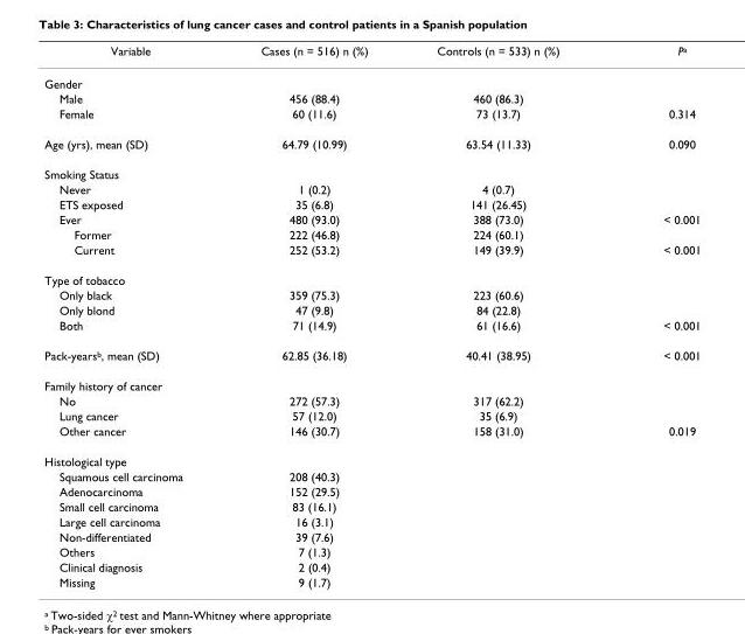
<table><thead><tr><td>Variable</td><td>Cases (n = 516) n (%)</td><td>Controls (n = 533) n (%)</td><td>P<sup>a</sup></td></tr></thead><tbody><tr><td colspan="4">Gender</td></tr><tr><td>Male</td><td>456 (88.4)</td><td>460 (86.3)</td><td></td></tr><tr><td>Female</td><td>60 (11.6)</td><td>73 (13.7)</td><td>0.314</td></tr><tr><td>Age (yrs), mean (SD)</td><td>64.79 (10.99)</td><td>63.54 (11.33)</td><td>0.090</td></tr><tr><td colspan="4">Smoking Status</td></tr><tr><td>Never</td><td>1 (0.2)</td><td>4 (0.7)</td><td></td></tr><tr><td>ETS exposed</td><td>35 (6.8)</td><td>141 (26.45)</td><td></td></tr><tr><td>Ever</td><td>480 (93.0)</td><td>388 (73.0)</td><td>&lt; 0.001</td></tr><tr><td>Former</td><td>222 (46.8)</td><td>224 (60.1)</td><td></td></tr><tr><td>Current</td><td>252 (53.2)</td><td>149 (39.9)</td><td>&lt; 0.001</td></tr><tr><td colspan="4">Type of tobacco</td></tr><tr><td>Only black</td><td>359 (75.3)</td><td>223 (60.6)</td><td></td></tr><tr><td>Only blond</td><td>47 (9.8)</td><td>84 (22.8)</td><td></td></tr><tr><td>Both</td><td>71 (14.9)</td><td>61 (16.6)</td><td>&lt; 0.001</td></tr><tr><td>Pack-years<sup>b</sup>, mean (SD)</td><td>62.85 (36.18)</td><td>40.41 (38.95)</td><td>&lt; 0.001</td></tr><tr><td colspan="4">Family history of cancer</td></tr><tr><td>No</td><td>272 (57.3)</td><td>317 (62.2)</td><td></td></tr><tr><td>Lung cancer</td><td>57 (12.0)</td><td>35 (6.9)</td><td></td></tr><tr><td>Other cancer</td><td>146 (30.7)</td><td>158 (31.0)</td><td>0.019</td></tr><tr><td colspan="4">Histological type</td></tr><tr><td>Squamous cell carcinoma</td><td>208 (40.3)</td><td></td><td></td></tr><tr><td>Adenocarcinoma</td><td>152 (29.5)</td><td></td><td></td></tr><tr><td>Small cell carcinoma</td><td>83 (16.1)</td><td></td><td></td></tr><tr><td>Large cell carcinoma</td><td>16 (3.1)</td><td></td><td></td></tr><tr><td>Non-differentiated</td><td>39 (7.6)</td><td></td><td></td></tr><tr><td>Others</td><td>7 (1.3)</td><td></td><td></td></tr><tr><td>Clinical diagnosis</td><td>2 (0.4)</td><td></td><td></td></tr><tr><td>Missing</td><td>9 (1.7)</td><td></td><td></td></tr></tbody></table>